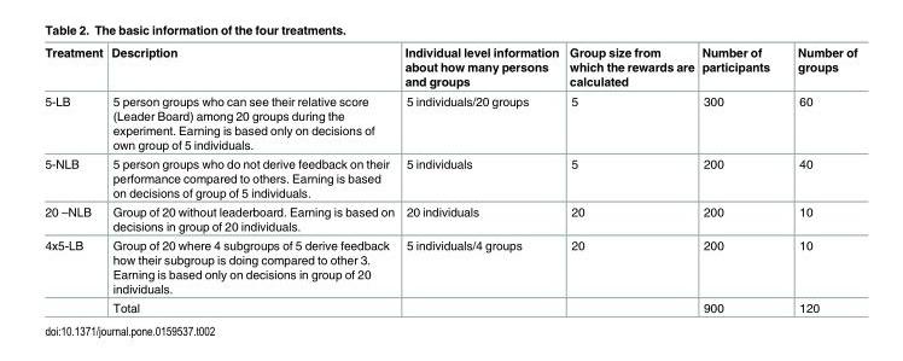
<table><thead><tr><td>Treatment</td><td>Description</td><td>Individual level information about how many persons and groups</td><td>Group size from which the rewards are calculated</td><td>Number of participants</td><td>Number of groups</td></tr></thead><tbody><tr><td>5-LB</td><td>5 person groups who can see their relative score (Leader Board) among 20 groups during the experiment. Earning is based only on decisions of own group of 5 individuals.</td><td>5 individuals/20 groups</td><td>5</td><td>300</td><td>60</td></tr><tr><td>5-NLB</td><td>5 person groups who do not derive feedback on their performance compared to others. Earning is based on decisions of group of 5 individuals.</td><td>5 individuals</td><td>5</td><td>200</td><td>40</td></tr><tr><td>20 –NLB</td><td>Group of 20 without leaderboard. Earning is based on decisions in group of 20 individuals.</td><td>20 individuals</td><td>20</td><td>200</td><td>10</td></tr><tr><td rowspan="2">4x5-LB</td><td>Group of 20 where 4 subgroups of 5 derive feedback how their subgroup is doing compared to other 3. Earning is based only on decisions in group of 20 individuals.</td><td>5 individuals/4 groups</td><td>20</td><td>200</td><td>10</td></tr><tr><td>Total</td><td></td><td></td><td>900</td><td>120</td></tr></tbody></table>